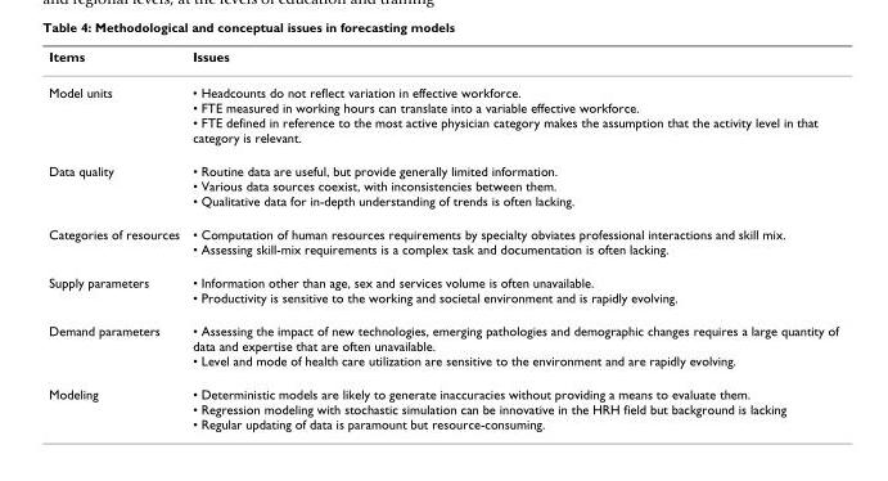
<table><thead><tr><td>Items</td><td>Issues</td></tr></thead><tbody><tr><td>Model units</td><td>• Headcounts do not reflect variation in effective workforce. • FTE measured in working hours can translate into a variable effective workforce. • FTE defined in reference to the most active physician category makes the assumption that the activity level in that category is relevant.</td></tr><tr><td>Data quality</td><td>• Routine data are useful, but provide generally limited information. • Various data sources coexist, with inconsistencies between them. • Qualitative data for in-depth understanding of trends is often lacking.</td></tr><tr><td>Categories of resources</td><td>• Computation of human resources requirements by specialty obviates professional interactions and skill mix. • Assessing skill-mix requirements is a complex task and documentation is often lacking.</td></tr><tr><td>Supply parameters</td><td>• Information other than age, sex and services volume is often unavailable. • Productivity is sensitive to the working and societal environment and is rapidly evolving.</td></tr><tr><td>Demand parameters</td><td>• Assessing the impact of new technologies, emerging pathologies and demographic changes requires a large quantity of data and expertise that are often unavailable. • Level and mode of health care utilization are sensitive to the environment and are rapidly evolving.</td></tr><tr><td>Modeling</td><td>• Deterministic models are likely to generate inaccuracies without providing a means to evaluate them. • Regression modeling with stochastic simulation can be innovative in the HRH field but background is lacking • Regular updating of data is paramount but resource-consuming.</td></tr></tbody></table>